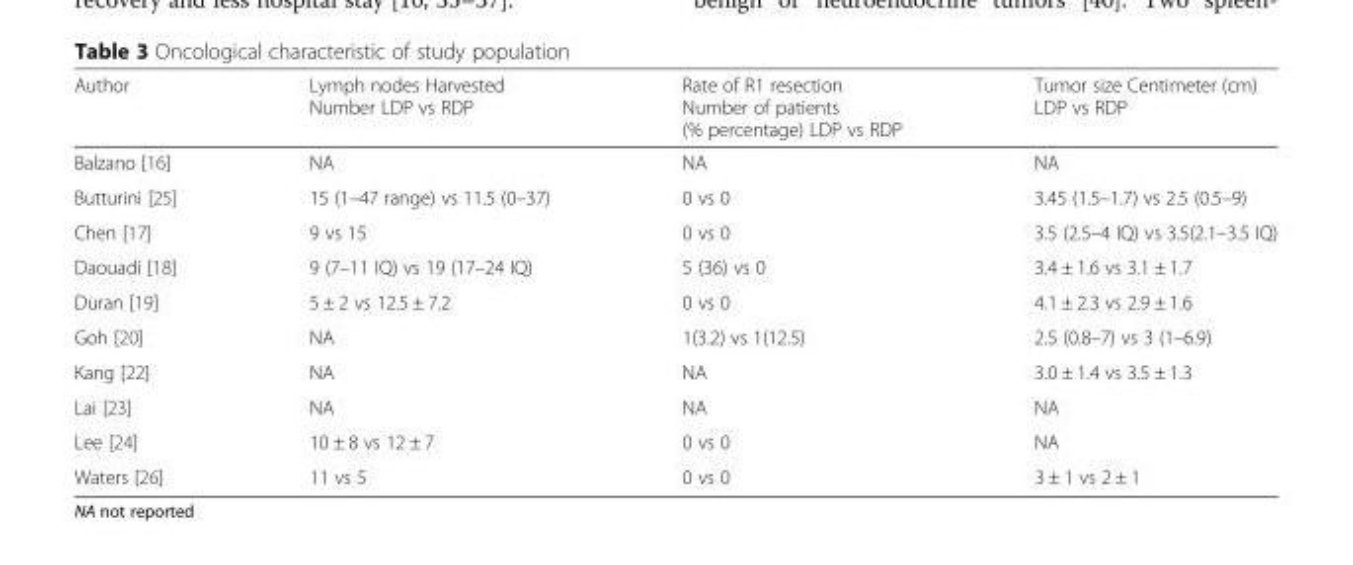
<table><thead><tr><td>Author</td><td>Lymph nodes Harvested Number LDP vs RDP</td><td>Rate of R1 resection Number of patients (% percentage) LDP vs RDP</td><td>Tumor size Centimeter (cm) LDP vs RDP</td></tr></thead><tbody><tr><td>Balzano [16]</td><td>NA</td><td>NA</td><td>NA</td></tr><tr><td>Butturini [25]</td><td>15 (1–47 range) vs 11.5 (0–37)</td><td>0 vs 0</td><td>3.45 (1.5–1.7) vs 2.5 (0.5–9)</td></tr><tr><td>Chen [17]</td><td>9 vs 15</td><td>0 vs 0</td><td>3.5 (2.5–4 IQ) vs 3.5(2.1–3.5 IQ)</td></tr><tr><td>Daouadi [18]</td><td>9 (7–11 IQ) vs 19 (17–24 IQ)</td><td>5 (36) vs 0</td><td>3.4 ± 1.6 vs 3.1 ± 1.7</td></tr><tr><td>Duran [19]</td><td>5 ± 2 vs 12.5 ± 7.2</td><td>0 vs 0</td><td>4.1 ± 2.3 vs 2.9 ± 1.6</td></tr><tr><td>Goh [20]</td><td>NA</td><td>1(3.2) vs 1(12.5)</td><td>2.5 (0.8–7) vs 3 (1–6.9)</td></tr><tr><td>Kang [22]</td><td>NA</td><td>NA</td><td>3.0 ± 1.4 vs 3.5 ± 1.3</td></tr><tr><td>Lai [23]</td><td>NA</td><td>NA</td><td>NA</td></tr><tr><td>Lee [24]</td><td>10 ± 8 vs 12 ± 7</td><td>0 vs 0</td><td>NA</td></tr><tr><td>Waters [26]</td><td>11 vs 5</td><td>0 vs 0</td><td>3 ± 1 vs 2 ± 1</td></tr></tbody></table>